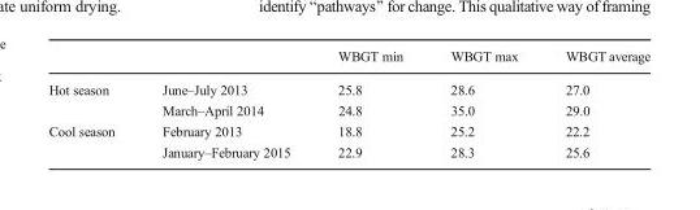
<table><thead><tr><td></td><td></td><td>WBGT min</td><td>WBGT max</td><td>WBGT average</td></tr></thead><tbody><tr><td rowspan="2">Hot season</td><td>June–July 2013</td><td>25.8</td><td>28.6</td><td>27.0</td></tr><tr><td>March–April 2014</td><td>24.8</td><td>35.0</td><td>29.0</td></tr><tr><td rowspan="2">Cool season</td><td>February 2013</td><td>18.8</td><td>25.2</td><td>22.2</td></tr><tr><td>January–February 2015</td><td>22.9</td><td>28.3</td><td>25.6</td></tr></tbody></table>